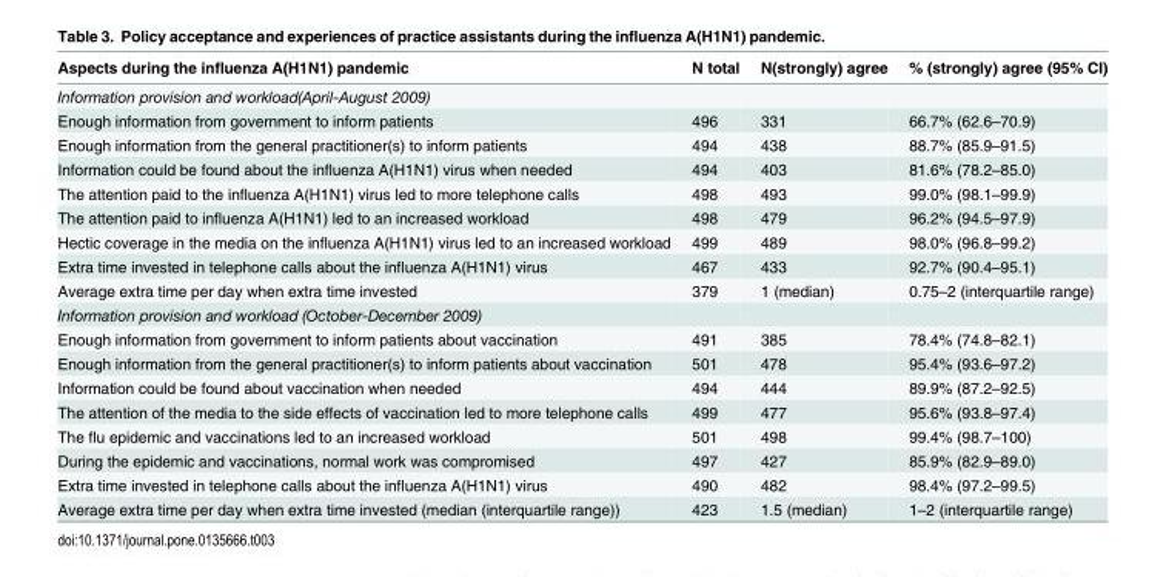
<table><thead><tr><td>Aspects during the influenza A(H1N1) pandemic</td><td>N total</td><td>N(strongly) agree</td><td>% (strongly) agree (95% CI)</td></tr></thead><tbody><tr><td colspan="4">Information provision and workload(April-August 2009)</td></tr><tr><td>Enough information from government to inform patients</td><td>496</td><td>331</td><td>66.7% (62.6–70.9)</td></tr><tr><td>Enough information from the general practitioner(s) to inform patients</td><td>494</td><td>438</td><td>88.7% (85.9–91.5)</td></tr><tr><td>Information could be found about the influenza A(H1N1) virus when needed</td><td>494</td><td>403</td><td>81.6% (78.2–85.0)</td></tr><tr><td>The attention paid to the influenza A(H1N1) virus led to more telephone calls</td><td>498</td><td>493</td><td>99.0% (98.1–99.9)</td></tr><tr><td>The attention paid to influenza A(H1N1) led to an increased workload</td><td>498</td><td>479</td><td>96.2% (94.5–97.9)</td></tr><tr><td>Hectic coverage in the media on the influenza A(H1N1) virus led to an increased workload</td><td>499</td><td>489</td><td>98.0% (96.8–99.2)</td></tr><tr><td>Extra time invested in telephone calls about the influenza A(H1N1) virus</td><td>467</td><td>433</td><td>92.7% (90.4–95.1)</td></tr><tr><td>Average extra time per day when extra time invested</td><td>379</td><td>1 (median)</td><td>0.75–2 (interquartile range)</td></tr><tr><td colspan="4">Information provision and workload (October-December 2009)</td></tr><tr><td>Enough information from government to inform patients about vaccination</td><td>491</td><td>385</td><td>78.4% (74.8–82.1)</td></tr><tr><td>Enough information from the general practitioner(s) to inform patients about vaccination</td><td>501</td><td>478</td><td>95.4% (93.6–97.2)</td></tr><tr><td>Information could be found about vaccination when needed</td><td>494</td><td>444</td><td>89.9% (87.2–92.5)</td></tr><tr><td>The attention of the media to the side effects of vaccination led to more telephone calls</td><td>499</td><td>477</td><td>95.6% (93.8–97.4)</td></tr><tr><td>The flu epidemic and vaccinations led to an increased workload</td><td>501</td><td>498</td><td>99.4% (98.7–100)</td></tr><tr><td>During the epidemic and vaccinations, normal work was compromised</td><td>497</td><td>427</td><td>85.9% (82.9–89.0)</td></tr><tr><td>Extra time invested in telephone calls about the influenza A(H1N1) virus</td><td>490</td><td>482</td><td>98.4% (97.2–99.5)</td></tr><tr><td>Average extra time per day when extra time invested (median (interquartile range))</td><td>423</td><td>1.5 (median)</td><td>1–2 (interquartile range)</td></tr></tbody></table>